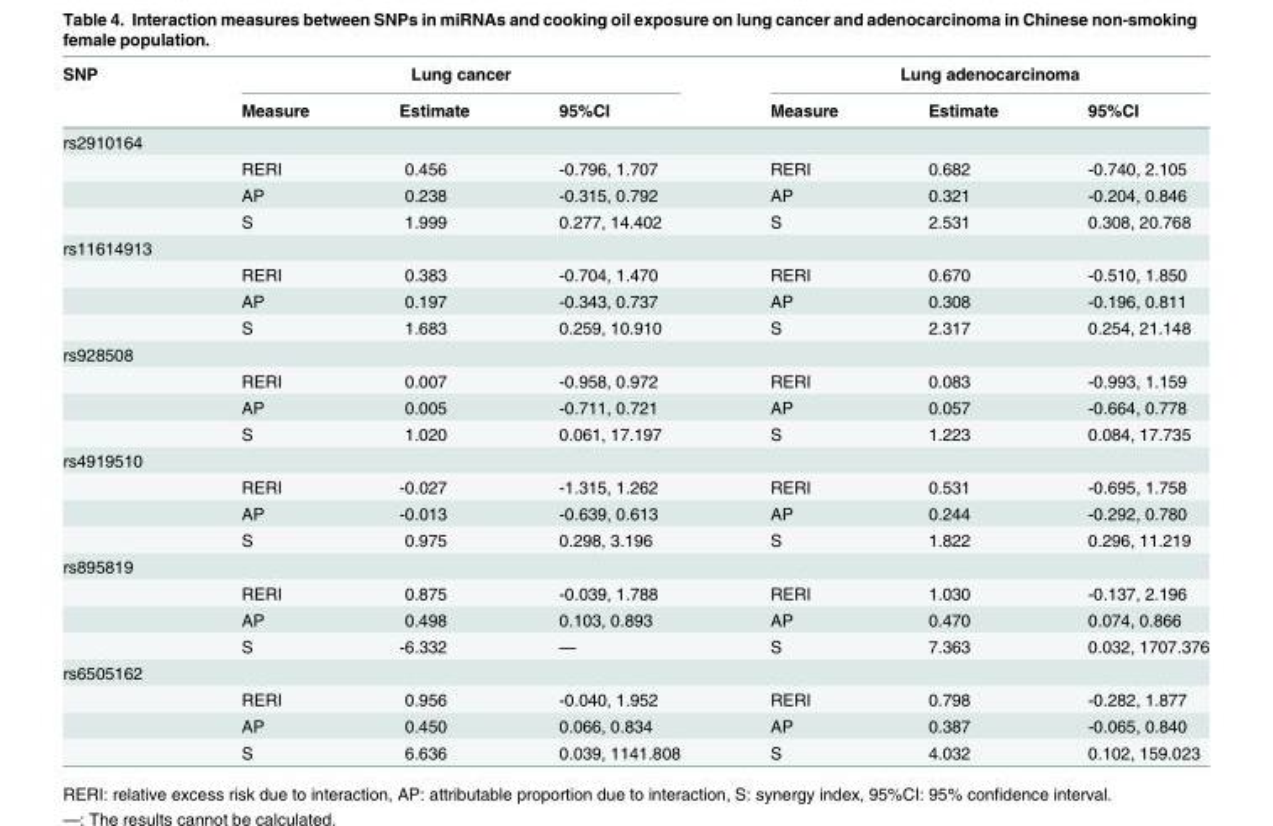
<table><thead><tr><td rowspan="2">SNP</td><td colspan="3">Lung cancer</td><td colspan="3">Lung adenocarcinoma</td></tr><tr><td>Measure</td><td>Estimate</td><td>95%CI</td><td>Measure</td><td>Estimate</td><td>95%CI</td></tr></thead><tbody><tr><td colspan="7">rs2910164</td></tr><tr><td></td><td>RERI</td><td>0.456</td><td>-0.796, 1.707</td><td>RERI</td><td>0.682</td><td>-0.740, 2.105</td></tr><tr><td></td><td>AP</td><td>0.238</td><td>-0.315, 0.792</td><td>AP</td><td>0.321</td><td>-0.204, 0.846</td></tr><tr><td></td><td>S</td><td>1.999</td><td>0.277, 14.402</td><td>S</td><td>2.531</td><td>0.308, 20.768</td></tr><tr><td colspan="7">rs11614913</td></tr><tr><td></td><td>RERI</td><td>0.383</td><td>-0.704, 1.470</td><td>RERI</td><td>0.670</td><td>-0.510, 1.850</td></tr><tr><td></td><td>AP</td><td>0.197</td><td>-0.343, 0.737</td><td>AP</td><td>0.308</td><td>-0.196, 0.811</td></tr><tr><td></td><td>S</td><td>1.683</td><td>0.259, 10.910</td><td>S</td><td>2.317</td><td>0.254, 21.148</td></tr><tr><td colspan="7">rs928508</td></tr><tr><td></td><td>RERI</td><td>0.007</td><td>-0.958, 0.972</td><td>RERI</td><td>0.083</td><td>-0.993, 1.159</td></tr><tr><td></td><td>AP</td><td>0.005</td><td>-0.711, 0.721</td><td>AP</td><td>0.057</td><td>-0.664, 0.778</td></tr><tr><td></td><td>S</td><td>1.020</td><td>0.061, 17.197</td><td>S</td><td>1.223</td><td>0.084, 17.735</td></tr><tr><td colspan="7">rs4919510</td></tr><tr><td></td><td>RERI</td><td>-0.027</td><td>-1.315, 1.262</td><td>RERI</td><td>0.531</td><td>-0.695, 1.758</td></tr><tr><td></td><td>AP</td><td>-0.013</td><td>-0.639, 0.613</td><td>AP</td><td>0.244</td><td>-0.292, 0.780</td></tr><tr><td></td><td>S</td><td>0.975</td><td>0.298, 3.196</td><td>S</td><td>1.822</td><td>0.296, 11.219</td></tr><tr><td colspan="7">rs895819</td></tr><tr><td></td><td>RERI</td><td>0.875</td><td>-0.039, 1.788</td><td>RERI</td><td>1.030</td><td>-0.137, 2.196</td></tr><tr><td></td><td>AP</td><td>0.498</td><td>0.103, 0.893</td><td>AP</td><td>0.470</td><td>0.074, 0.866</td></tr><tr><td></td><td>S</td><td>-6.332</td><td>—</td><td>S</td><td>7.363</td><td>0.032, 1707.376</td></tr><tr><td colspan="7">rs6505162</td></tr><tr><td></td><td>RERI</td><td>0.956</td><td>-0.040, 1.952</td><td>RERI</td><td>0.798</td><td>-0.282, 1.877</td></tr><tr><td></td><td>AP</td><td>0.450</td><td>0.066, 0.834</td><td>AP</td><td>0.387</td><td>-0.065, 0.840</td></tr><tr><td></td><td>S</td><td>6.636</td><td>0.039, 1141.808</td><td>S</td><td>4.032</td><td>0.102, 159.023</td></tr></tbody></table>